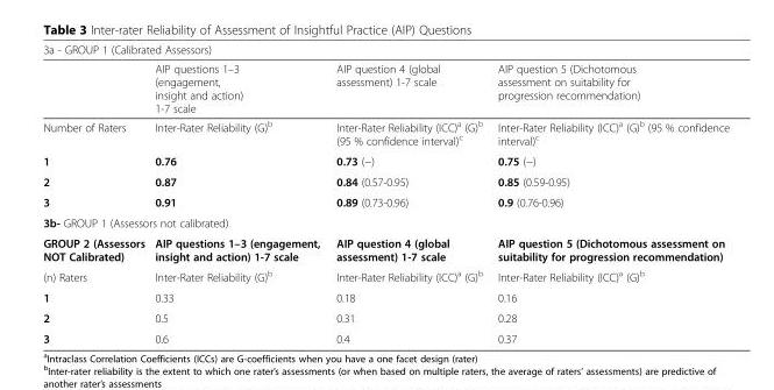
<table><thead><tr><td colspan="4">3a - GROUP 1 (Calibrated Assessors)</td></tr><tr><td></td><td>AIP questions 1–3 (engagement, insight and action) 1-7 scale</td><td>AIP question 4 (global assessment) 1-7 scale</td><td>AIP question 5 (Dichotomous assessment on suitability for progression recommendation)</td></tr></thead><tbody><tr><td>Number of Raters</td><td>Inter-Rater Reliability (G)<sup>b</sup></td><td>Inter-Rater Reliability (ICC)<sup>a</sup> (G)<sup>b</sup> (95 % confidence interval)<sup>c</sup></td><td>Inter-Rater Reliability (ICC)<sup>a</sup> (G)<sup>b</sup> (95 % confidence interval)<sup>c</sup></td></tr><tr><td>1</td><td>0.76</td><td>0.73 (−)</td><td>0.75 (−)</td></tr><tr><td>2</td><td>0.87</td><td>0.84 (0.57-0.95)</td><td>0.85 (0.59-0.95)</td></tr><tr><td>3</td><td>0.91</td><td>0.89 (0.73-0.96)</td><td>0.9 (0.76-0.96)</td></tr><tr><td colspan="4">3b- GROUP 1 (Assessors not calibrated)</td></tr><tr><td>GROUP 2 (Assessors NOT Calibrated)</td><td>AIP questions 1–3 (engagement, insight and action) 1-7 scale</td><td>AIP question 4 (global assessment) 1-7 scale</td><td>AIP question 5 (Dichotomous assessment on suitability for progression recommendation)</td></tr><tr><td>(n) Raters</td><td>Inter-Rater Reliability (G)<sup>b</sup></td><td>Inter-Rater Reliability (ICC)<sup>a</sup> (G)<sup>b</sup></td><td>Inter-Rater Reliability (ICC)<sup>a</sup> (G)<sup>b</sup></td></tr><tr><td>1</td><td>0.33</td><td>0.18</td><td>0.16</td></tr><tr><td>2</td><td>0.5</td><td>0.31</td><td>0.28</td></tr><tr><td>3</td><td>0.6</td><td>0.4</td><td>0.37</td></tr></tbody></table>